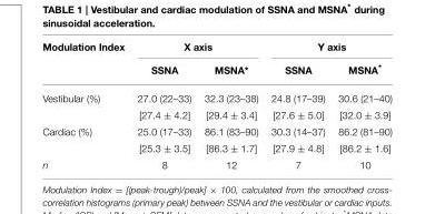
<table><thead><tr><td rowspan="2">Modulation Index</td><td colspan="2">X axis</td><td colspan="2">Y axis</td></tr><tr><td>SSNA</td><td>MSNA*</td><td>SSNA</td><td>MSNA*</td></tr></thead><tbody><tr><td rowspan="2">Vestibular (%)</td><td>27.0 (22–33)</td><td>32.3 (23–38)</td><td>24.8 (17–39)</td><td>30.6 (21–40)</td></tr><tr><td>[27.4 ± 4.2]</td><td>[29.4 ± 3.4]</td><td>[27.6 ± 5.0]</td><td>[32.0 ± 3.9]</td></tr><tr><td rowspan="2">Cardiac (%)</td><td>25.0 (17–33)</td><td>86.1 (83–90)</td><td>30.3 (14–37)</td><td>86.2 (81–90)</td></tr><tr><td>[25.3 ± 3.5]</td><td>[86.3 ± 1.7]</td><td>[27.9 ± 4.8]</td><td>[86.2 ± 1.6]</td></tr><tr><td>n</td><td>8</td><td>12</td><td>7</td><td>10</td></tr></tbody></table>